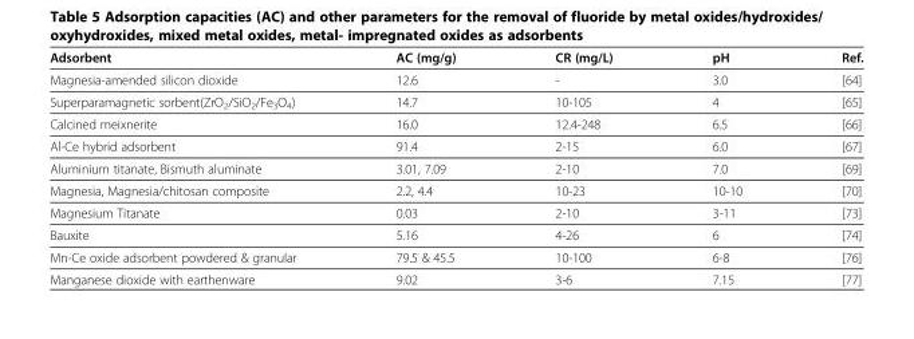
<table><thead><tr><td>Adsorbent</td><td>AC (mg/g)</td><td>CR (mg/L)</td><td>pH</td><td>Ref.</td></tr></thead><tbody><tr><td>Magnesia-amended silicon dioxide</td><td>12.6</td><td>-</td><td>3.0</td><td>[64]</td></tr><tr><td>Superparamagnetic sorbent(ZrO<sub>2</sub>/SiO<sub>2</sub>/Fe<sub>3</sub>O<sub>4</sub>)</td><td>14.7</td><td>10-105</td><td>4</td><td>[65]</td></tr><tr><td>Calcined meixnerite</td><td>16.0</td><td>12.4-248</td><td>6.5</td><td>[66]</td></tr><tr><td>Al-Ce hybrid adsorbent</td><td>91.4</td><td>2-15</td><td>6.0</td><td>[67]</td></tr><tr><td>Aluminium titanate, Bismuth aluminate</td><td>3.01, 7.09</td><td>2-10</td><td>7.0</td><td>[69]</td></tr><tr><td>Magnesia, Magnesia/chitosan composite</td><td>2.2, 4.4</td><td>10-23</td><td>10-10</td><td>[70]</td></tr><tr><td>Magnesium Titanate</td><td>0.03</td><td>2-10</td><td>3-11</td><td>[73]</td></tr><tr><td>Bauxite</td><td>5.16</td><td>4-26</td><td>6</td><td>[74]</td></tr><tr><td>Mn-Ce oxide adsorbent powdered &amp; granular</td><td>79.5 &amp; 45.5</td><td>10-100</td><td>6-8</td><td>[76]</td></tr><tr><td>Manganese dioxide with earthenware</td><td>9.02</td><td>3-6</td><td>7.15</td><td>[77]</td></tr></tbody></table>